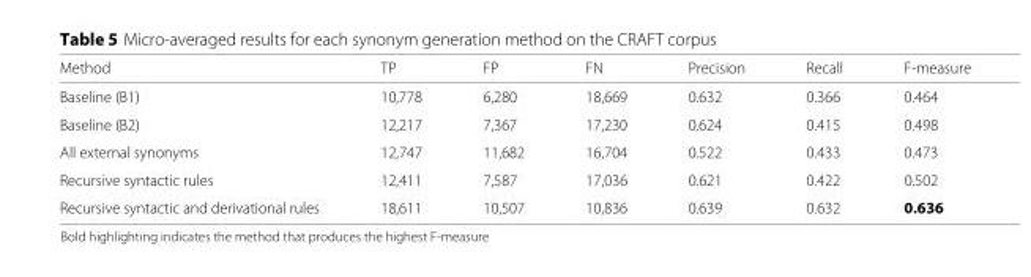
<table><thead><tr><td>Method</td><td>TP</td><td>FP</td><td>FN</td><td>Precision</td><td>Recall</td><td>F-measure</td></tr></thead><tbody><tr><td>Baseline (B1)</td><td>10,778</td><td>6,280</td><td>18,669</td><td>0.632</td><td>0.366</td><td>0.464</td></tr><tr><td>Baseline (B2)</td><td>12,217</td><td>7,367</td><td>17,230</td><td>0.624</td><td>0.415</td><td>0.498</td></tr><tr><td>All external synonyms</td><td>12,747</td><td>11,682</td><td>16,704</td><td>0.522</td><td>0.433</td><td>0.473</td></tr><tr><td>Recursive syntactic rules</td><td>12,411</td><td>7,587</td><td>17,036</td><td>0.621</td><td>0.422</td><td>0.502</td></tr><tr><td>Recursive syntactic and derivational rules</td><td>18,611</td><td>10,507</td><td>10,836</td><td>0.639</td><td>0.632</td><td>0.636</td></tr></tbody></table>